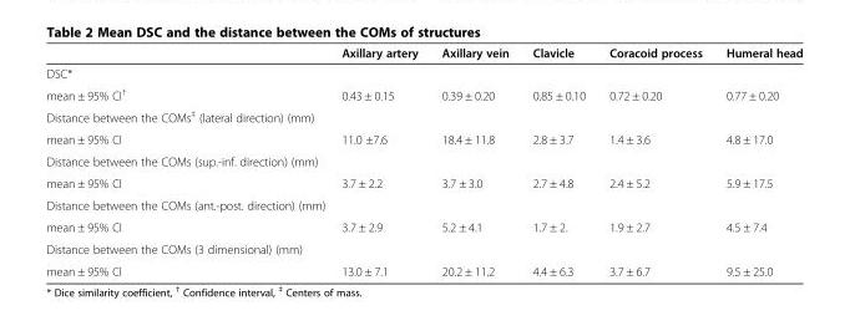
<table><thead><tr><td></td><td>Axillary artery</td><td>Axillary vein</td><td>Clavicle</td><td>Coracoid process</td><td>Humeral head</td></tr></thead><tbody><tr><td colspan="6">DSC*</td></tr><tr><td>mean ± 95% CI<sup>†</sup></td><td>0.43 ± 0.15</td><td>0.39 ± 0.20</td><td>0.85 ± 0.10</td><td>0.72 ± 0.20</td><td>0.77 ± 0.20</td></tr><tr><td colspan="6">Distance between the COMs<sup>‡</sup> (lateral direction) (mm)</td></tr><tr><td>mean ± 95% CI</td><td>11.0 ±7.6</td><td>18.4 ± 11.8</td><td>2.8 ± 3.7</td><td>1.4 ± 3.6</td><td>4.8 ± 17.0</td></tr><tr><td colspan="6">Distance between the COMs (sup.-inf. direction) (mm)</td></tr><tr><td>mean ± 95% CI</td><td>3.7 ± 2.2</td><td>3.7 ± 3.0</td><td>2.7 ± 4.8</td><td>2.4 ± 5.2</td><td>5.9 ± 17.5</td></tr><tr><td colspan="6">Distance between the COMs (ant.-post. direction) (mm)</td></tr><tr><td>mean ± 95% CI</td><td>3.7 ± 2.9</td><td>5.2 ± 4.1</td><td>1.7 ± 2.</td><td>1.9 ± 2.7</td><td>4.5 ± 7.4</td></tr><tr><td colspan="6">Distance between the COMs (3 dimensional) (mm)</td></tr><tr><td>mean ± 95% CI</td><td>13.0 ± 7.1</td><td>20.2 ± 11.2</td><td>4.4 ± 6.3</td><td>3.7 ± 6.7</td><td>9.5 ± 25.0</td></tr></tbody></table>